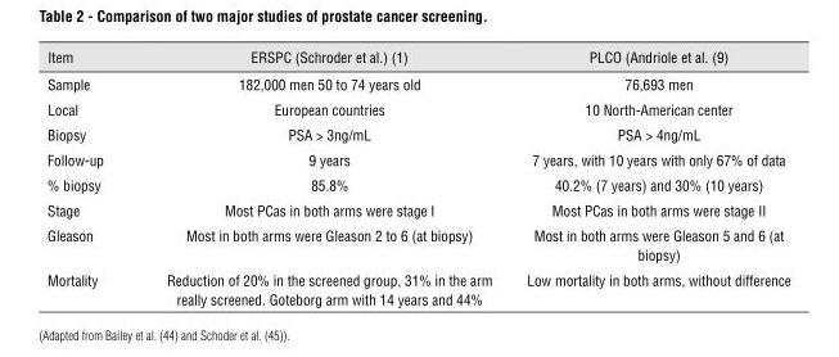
<table><thead><tr><td>Item</td><td>ERSPC (Schroder et al.) (1)</td><td>PLCO (Andriole et al. (9)</td></tr></thead><tbody><tr><td>Sample</td><td>182,000 men 50 to 74 years old</td><td>76,693 men</td></tr><tr><td>Local</td><td>European countries</td><td>10 North-American center</td></tr><tr><td>Biopsy</td><td>PSA &gt; 3ng/mL</td><td>PSA &gt; 4ng/mL</td></tr><tr><td>Follow-up</td><td>9 years</td><td>7 years, with 10 years with only 67% of data</td></tr><tr><td>% biopsy</td><td>85.8%</td><td>40.2% (7 years) and 30% (10 years)</td></tr><tr><td>Stage</td><td>Most PCas in both arms were stage I</td><td>Most PCas in both arms were stage II</td></tr><tr><td>Gleason</td><td>Most in both arms were Gleason 2 to 6 (at biopsy)</td><td>Most in both arms were Gleason 5 and 6 (at biopsy)</td></tr><tr><td>Mortality</td><td>Reduction of 20% in the screened group, 31% in the arm really screened. Goteborg arm with 14 years and 44%</td><td>Low mortality in both arms, without difference</td></tr></tbody></table>